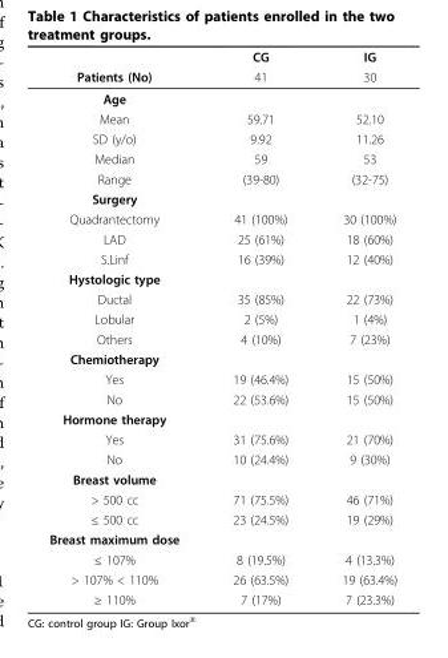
<table><thead><tr><td rowspan="2">Patients (No)</td><td rowspan="2">CG 41</td><td rowspan="2">IG 30</td></tr><tr></tr></thead><tbody><tr><td colspan="3">Age</td></tr><tr><td>Mean</td><td>59.71</td><td>52.10</td></tr><tr><td>SD (y/o)</td><td>9.92</td><td>11.26</td></tr><tr><td>Median</td><td>59</td><td>53</td></tr><tr><td>Range</td><td>(39-80)</td><td>(32-75)</td></tr><tr><td colspan="3">Surgery</td></tr><tr><td>Quadrantectomy</td><td>41 (100%)</td><td>30 (100%)</td></tr><tr><td>LAD</td><td>25 (61%)</td><td>18 (60%)</td></tr><tr><td>S.Linf</td><td>16 (39%)</td><td>12 (40%)</td></tr><tr><td colspan="3">Hystologic type</td></tr><tr><td>Ductal</td><td>35 (85%)</td><td>22 (73%)</td></tr><tr><td>Lobular</td><td>2 (5%)</td><td>1 (4%)</td></tr><tr><td>Others</td><td>4 (10%)</td><td>7 (23%)</td></tr><tr><td colspan="3">Chemiotherapy</td></tr><tr><td>Yes</td><td>19 (46.4%)</td><td>15 (50%)</td></tr><tr><td>No</td><td>22 (53.6%)</td><td>15 (50%)</td></tr><tr><td colspan="3">Hormone therapy</td></tr><tr><td>Yes</td><td>31 (75.6%)</td><td>21 (70%)</td></tr><tr><td>No</td><td>10 (24.4%)</td><td>9 (30%)</td></tr><tr><td colspan="3">Breast volume</td></tr><tr><td>&gt; 500 cc</td><td>71 (75.5%)</td><td>46 (71%)</td></tr><tr><td>≤ 500 cc</td><td>23 (24.5%)</td><td>19 (29%)</td></tr><tr><td colspan="3">Breast maximum dose</td></tr><tr><td>≤ 107%</td><td>8 (19.5%)</td><td>4 (13.3%)</td></tr><tr><td>&gt; 107% &lt; 110%</td><td>26 (63.5%)</td><td>19 (63.4%)</td></tr><tr><td>≥ 110%</td><td>7 (17%)</td><td>7 (23.3%)</td></tr></tbody></table>